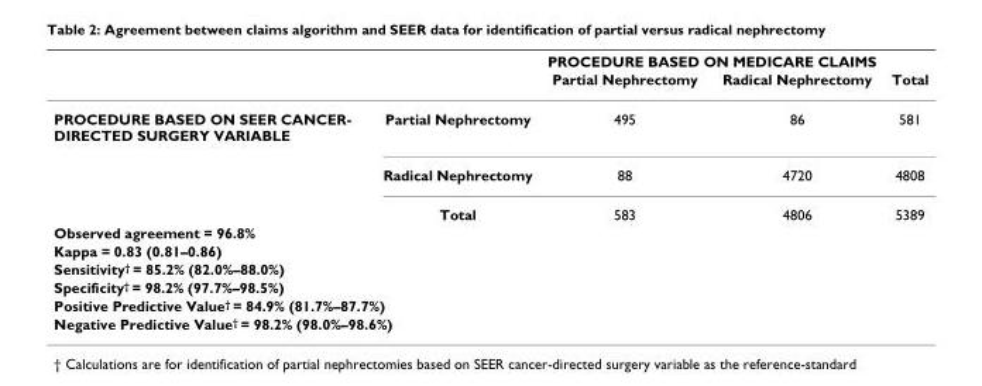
<table><thead><tr><td rowspan="2"></td><td rowspan="2"></td><td colspan="2">PROCEDURE BASED ON MEDICARE CLAIMS</td><td rowspan="2">Total</td></tr><tr><td>Partial Nephrectomy</td><td>Radical Nephrectomy</td></tr></thead><tbody><tr><td rowspan="3">PROCEDURE BASED ON SEER CANCER- DIRECTED SURGERY VARIABLE</td><td>Partial Nephrectomy</td><td>495</td><td>86</td><td>581</td></tr><tr><td>Radical Nephrectomy</td><td>88</td><td>4720</td><td>4808</td></tr><tr><td>Total</td><td>583</td><td>4806</td><td>5389</td></tr><tr><td colspan="5">Observed agreement = 96.8%</td></tr><tr><td colspan="5">Kappa = 0.83 (0.81–0.86)</td></tr><tr><td colspan="5">Sensitivity<sup>†</sup> = 85.2% (82.0%–88.0%)</td></tr><tr><td colspan="5">Specificity<sup>†</sup> = 98.2% (97.7%–98.5%)</td></tr><tr><td colspan="5">Positive Predictive Value<sup>†</sup> = 84.9% (81.7%–87.7%)</td></tr><tr><td colspan="5">Negative Predictive Value<sup>†</sup> = 98.2% (98.0%–98.6%)</td></tr></tbody></table>